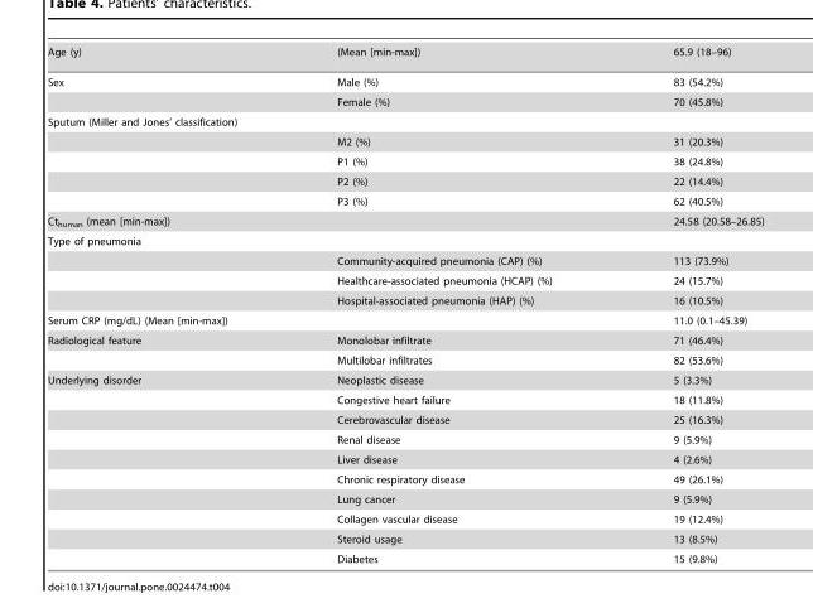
<table><tbody><tr><td>Age (y)</td><td>(Mean [min-max])</td><td>65.9 (18–96)</td></tr><tr><td rowspan="2">Sex</td><td>Male (%)</td><td>83 (54.2%)</td></tr><tr><td>Female (%)</td><td>70 (45.8%)</td></tr><tr><td colspan="3">Sputum (Miller and Jones’ classification)</td></tr><tr><td></td><td>M2 (%)</td><td>31 (20.3%)</td></tr><tr><td></td><td>P1 (%)</td><td>38 (24.8%)</td></tr><tr><td></td><td>P2 (%)</td><td>22 (14.4%)</td></tr><tr><td></td><td>P3 (%)</td><td>62 (40.5%)</td></tr><tr><td colspan="2">Ct<sub>human</sub> (mean [min-max])</td><td>24.58 (20.58–26.85)</td></tr><tr><td colspan="3">Type of pneumonia</td></tr><tr><td></td><td>Community-acquired pneumonia (CAP) (%)</td><td>113 (73.9%)</td></tr><tr><td></td><td>Healthcare-associated pneumonia (HCAP) (%)</td><td>24 (15.7%)</td></tr><tr><td></td><td>Hospital-associated pneumonia (HAP) (%)</td><td>16 (10.5%)</td></tr><tr><td colspan="2">Serum CRP (mg/dL) (Mean [min-max])</td><td>11.0 (0.1–45.39)</td></tr><tr><td rowspan="2">Radiological feature</td><td>Monolobar infiltrate</td><td>71 (46.4%)</td></tr><tr><td>Multilobar infiltrates</td><td>82 (53.6%)</td></tr><tr><td rowspan="10">Underlying disorder</td><td>Neoplastic disease</td><td>5 (3.3%)</td></tr><tr><td>Congestive heart failure</td><td>18 (11.8%)</td></tr><tr><td>Cerebrovascular disease</td><td>25 (16.3%)</td></tr><tr><td>Renal disease</td><td>9 (5.9%)</td></tr><tr><td>Liver disease</td><td>4 (2.6%)</td></tr><tr><td>Chronic respiratory disease</td><td>49 (26.1%)</td></tr><tr><td>Lung cancer</td><td>9 (5.9%)</td></tr><tr><td>Collagen vascular disease</td><td>19 (12.4%)</td></tr><tr><td>Steroid usage</td><td>13 (8.5%)</td></tr><tr><td>Diabetes</td><td>15 (9.8%)</td></tr></tbody></table>